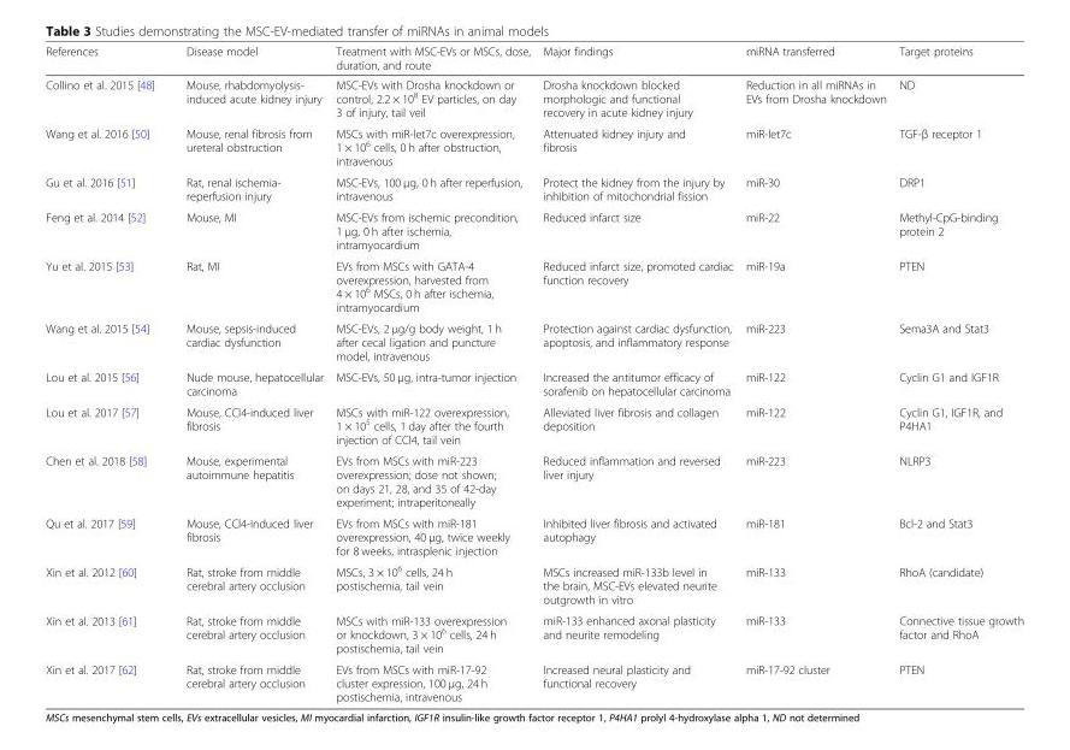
<table><thead><tr><td>References</td><td>Disease model</td><td>Treatment with MSC-EVs or MSCs, dose, duration, and route</td><td>Major findings</td><td>miRNA transferred</td><td>Target proteins</td></tr></thead><tbody><tr><td>Collino et al. 2015 [48]</td><td>Mouse, rhabdomyolysis- induced acute kidney injury</td><td>MSC-EVs with Drosha knockdown or control, 2.2 × 10<sup>8</sup> EV particles, on day 3 of injury, tail veil</td><td>Drosha knockdown blocked morphologic and functional recovery in acute kidney injury</td><td>Reduction in all miRNAs in EVs from Drosha knockdown</td><td>ND</td></tr><tr><td>Wang et al. 2016 [50]</td><td>Mouse, renal fibrosis from ureteral obstruction</td><td>MSCs with miR-let7c overexpression, 1 × 10<sup>6</sup> cells, 0 h after obstruction, intravenous</td><td>Attenuated kidney injury and fibrosis</td><td>miR-let7c</td><td>TGF-β receptor 1</td></tr><tr><td>Gu et al. 2016 [51]</td><td>Rat, renal ischemia- reperfusion injury</td><td>MSC-EVs, 100 μg, 0 h after reperfusion, intravenous</td><td>Protect the kidney from the injury by inhibition of mitochondrial fission</td><td>miR-30</td><td>DRP1</td></tr><tr><td>Feng et al. 2014 [52]</td><td>Mouse, MI</td><td>MSC-EVs from ischemic precondition, 1 μg, 0 h after ischemia, intramyocardium</td><td>Reduced infarct size</td><td>miR-22</td><td>Methyl-CpG-binding protein 2</td></tr><tr><td>Yu et al. 2015 [53]</td><td>Rat, MI</td><td>EVs from MSCs with GATA-4 overexpression, harvested from 4 × 10<sup>6</sup> MSCs, 0 h after ischemia, intramyocardium</td><td>Reduced infarct size, promoted cardiac function recovery</td><td>miR-19a</td><td>PTEN</td></tr><tr><td>Wang et al. 2015 [54]</td><td>Mouse, sepsis-induced cardiac dysfunction</td><td>MSC-EVs, 2 μg/g body weight, 1 h after cecal ligation and puncture model, intravenous</td><td>Protection against cardiac dysfunction, apoptosis, and inflammatory response</td><td>miR-223</td><td>Sema3A and Stat3</td></tr><tr><td>Lou et al. 2015 [56]</td><td>Nude mouse, hepatocellular carcinoma</td><td>MSC-EVs, 50 μg, intra-tumor injection</td><td>Increased the antitumor efficacy of sorafenib on hepatocellular carcinoma</td><td>miR-122</td><td>Cyclin G1 and IGF1R</td></tr><tr><td>Lou et al. 2017 [57]</td><td>Mouse, CCl4-induced liver fibrosis</td><td>MSCs with miR-122 overexpression, 1 × 10<sup>5</sup> cells, 1 day after the fourth injection of CCl4, tail vein</td><td>Alleviated liver fibrosis and collagen deposition</td><td>miR-122</td><td>Cyclin G1, IGF1R, and P4HA1</td></tr><tr><td>Chen et al. 2018 [58]</td><td>Mouse, experimental autoimmune hepatitis</td><td>EVs from MSCs with miR-223 overexpression; dose not shown; on days 21, 28, and 35 of 42-day experiment; intraperitoneally</td><td>Reduced inflammation and reversed liver injury</td><td>miR-223</td><td>NLRP3</td></tr><tr><td>Qu et al. 2017 [59]</td><td>Mouse, CCl4-induced liver fibrosis</td><td>EVs from MSCs with miR-181 overexpression, 40 μg, twice weekly for 8 weeks, intrasplenic injection</td><td>Inhibited liver fibrosis and activated autophagy</td><td>miR-181</td><td>Bcl-2 and Stat3</td></tr><tr><td>Xin et al. 2012 [60]</td><td>Rat, stroke from middle cerebral artery occlusion</td><td>MSCs, 3 × 10<sup>6</sup> cells, 24 h postischemia, tail vein</td><td>MSCs increased miR-133b level in the brain, MSC-EVs elevated neurite outgrowth in vitro</td><td>miR-133</td><td>RhoA (candidate)</td></tr><tr><td>Xin et al. 2013 [61]</td><td>Rat, stroke from middle cerebral artery occlusion</td><td>MSCs with miR-133 overexpression or knockdown, 3 × 10<sup>6</sup> cells, 24 h postischemia, tail vein</td><td>miR-133 enhanced axonal plasticity and neurite remodeling</td><td>miR-133</td><td>Connective tissue growth factor and RhoA</td></tr><tr><td>Xin et al. 2017 [62]</td><td>Rat, stroke from middle cerebral artery occlusion</td><td>EVs from MSCs with miR-17-92 cluster expression, 100 μg, 24 h postischemia, intravenous</td><td>Increased neural plasticity and functional recovery</td><td>miR-17-92 cluster</td><td>PTEN</td></tr></tbody></table>